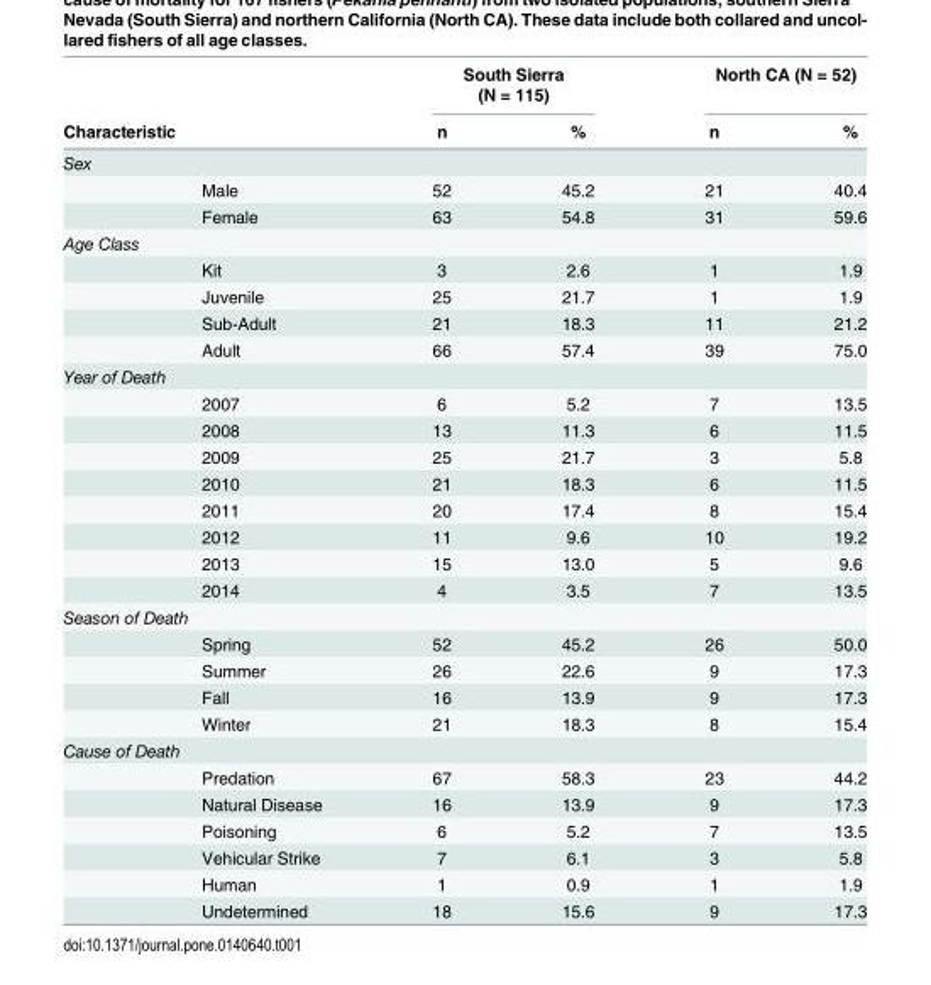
<table><thead><tr><td></td><td></td><td colspan="2">South Sierra (N = 115)</td><td colspan="2">North CA (N = 52)</td></tr><tr><td colspan="2">Characteristic</td><td>n</td><td>%</td><td>n</td><td>%</td></tr></thead><tbody><tr><td colspan="6">Sex</td></tr><tr><td></td><td>Male</td><td>52</td><td>45.2</td><td>21</td><td>40.4</td></tr><tr><td></td><td>Female</td><td>63</td><td>54.8</td><td>31</td><td>59.6</td></tr><tr><td colspan="6">Age Class</td></tr><tr><td></td><td>Kit</td><td>3</td><td>2.6</td><td>1</td><td>1.9</td></tr><tr><td></td><td>Juvenile</td><td>25</td><td>21.7</td><td>1</td><td>1.9</td></tr><tr><td></td><td>Sub-Adult</td><td>21</td><td>18.3</td><td>11</td><td>21.2</td></tr><tr><td></td><td>Adult</td><td>66</td><td>57.4</td><td>39</td><td>75.0</td></tr><tr><td colspan="6">Year of Death</td></tr><tr><td></td><td>2007</td><td>6</td><td>5.2</td><td>7</td><td>13.5</td></tr><tr><td></td><td>2008</td><td>13</td><td>11.3</td><td>6</td><td>11.5</td></tr><tr><td></td><td>2009</td><td>25</td><td>21.7</td><td>3</td><td>5.8</td></tr><tr><td></td><td>2010</td><td>21</td><td>18.3</td><td>6</td><td>11.5</td></tr><tr><td></td><td>2011</td><td>20</td><td>17.4</td><td>8</td><td>15.4</td></tr><tr><td></td><td>2012</td><td>11</td><td>9.6</td><td>10</td><td>19.2</td></tr><tr><td></td><td>2013</td><td>15</td><td>13.0</td><td>5</td><td>9.6</td></tr><tr><td></td><td>2014</td><td>4</td><td>3.5</td><td>7</td><td>13.5</td></tr><tr><td colspan="6">Season of Death</td></tr><tr><td></td><td>Spring</td><td>52</td><td>45.2</td><td>26</td><td>50.0</td></tr><tr><td></td><td>Summer</td><td>26</td><td>22.6</td><td>9</td><td>17.3</td></tr><tr><td></td><td>Fall</td><td>16</td><td>13.9</td><td>9</td><td>17.3</td></tr><tr><td></td><td>Winter</td><td>21</td><td>18.3</td><td>8</td><td>15.4</td></tr><tr><td colspan="6">Cause of Death</td></tr><tr><td></td><td>Predation</td><td>67</td><td>58.3</td><td>23</td><td>44.2</td></tr><tr><td></td><td>Natural Disease</td><td>16</td><td>13.9</td><td>9</td><td>17.3</td></tr><tr><td></td><td>Poisoning</td><td>6</td><td>5.2</td><td>7</td><td>13.5</td></tr><tr><td></td><td>Vehicular Strike</td><td>7</td><td>6.1</td><td>3</td><td>5.8</td></tr><tr><td></td><td>Human</td><td>1</td><td>0.9</td><td>1</td><td>1.9</td></tr><tr><td></td><td>Undetermined</td><td>18</td><td>15.6</td><td>9</td><td>17.3</td></tr></tbody></table>